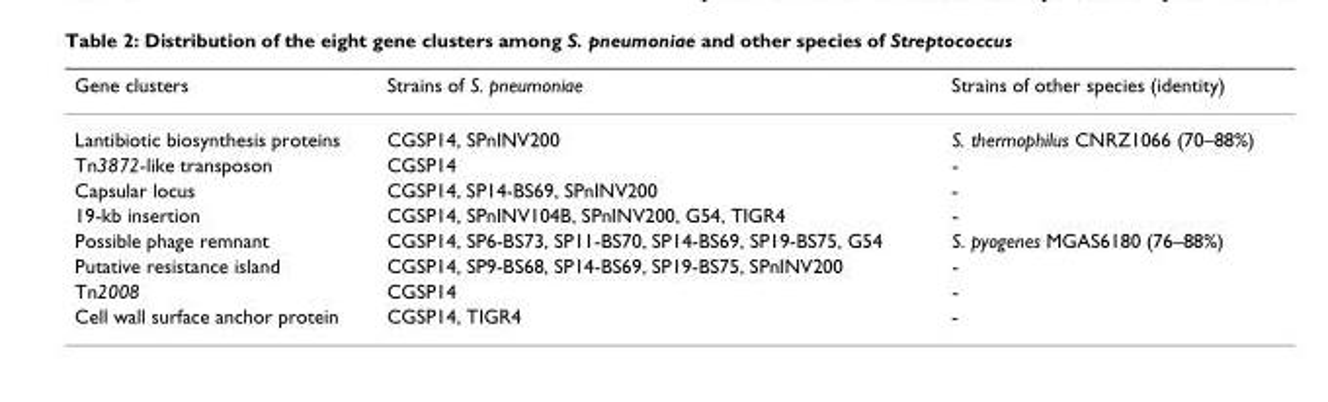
<table><thead><tr><td>Gene clusters</td><td>Strains of S. pneumoniae</td><td>Strains of other species (identity)</td></tr></thead><tbody><tr><td>Lantibiotic biosynthesis proteins</td><td>CGSP14, SPnINV200</td><td>S. thermophilus CNRZ1066 (70–88%)</td></tr><tr><td>Tn3872-like transposon</td><td>CGSP14</td><td>-</td></tr><tr><td>Capsular locus</td><td>CGSP14, SP14-BS69, SPnINV200</td><td>-</td></tr><tr><td>19-kb insertion</td><td>CGSP14, SPnINV104B, SPnINV200, G54, TIGR4</td><td>-</td></tr><tr><td>Possible phage remnant</td><td>CGSP14, SP6-BS73, SP11-BS70, SP14-BS69, SP19-BS75, G54</td><td>S. pyogenes MGAS6180 (76–88%)</td></tr><tr><td>Putative resistance island</td><td>CGSP14, SP9-BS68, SP14-BS69, SP19-BS75, SPnINV200</td><td>-</td></tr><tr><td>Tn2008</td><td>CGSP14</td><td>-</td></tr><tr><td>Cell wall surface anchor protein</td><td>CGSP14, TIGR4</td><td>-</td></tr></tbody></table>